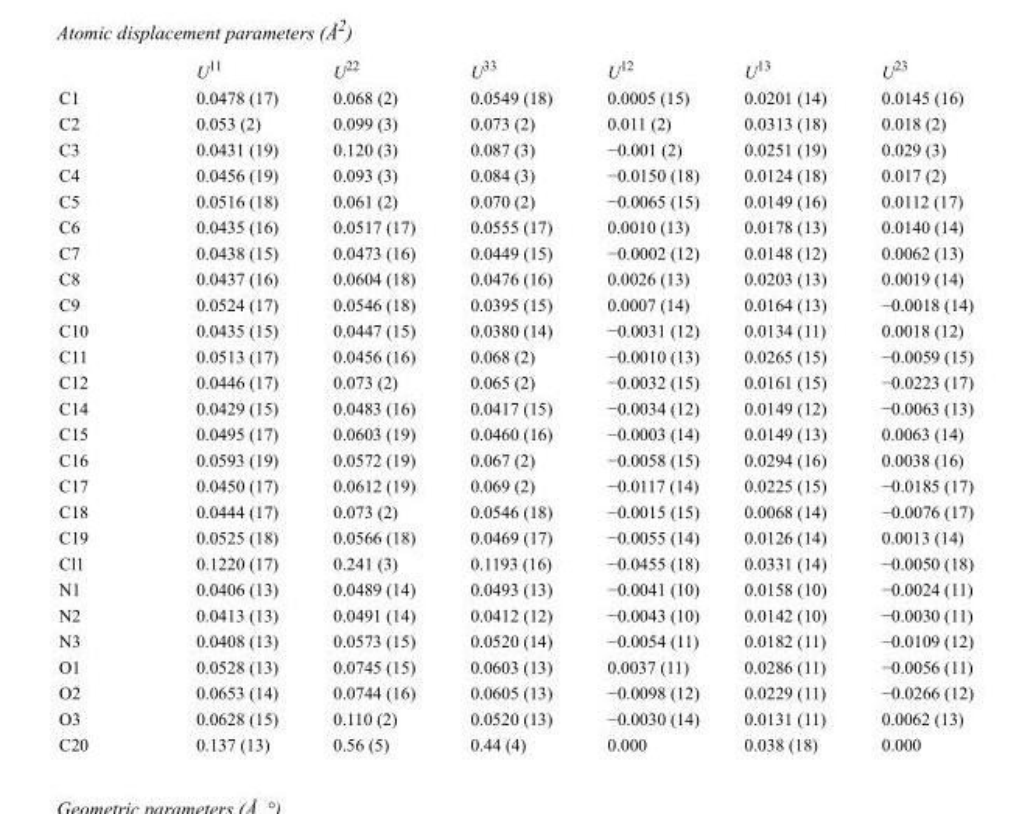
<table><thead><tr><td></td><td>U<sup>11</sup></td><td>U<sup>22</sup></td><td>U<sup>33</sup></td><td>U<sup>12</sup></td><td>U<sup>13</sup></td><td>U<sup>23</sup></td></tr></thead><tbody><tr><td>C1</td><td>0.0478 (17)</td><td>0.068 (2)</td><td>0.0549 (18)</td><td>0.0005 (15)</td><td>0.0201 (14)</td><td>0.0145 (16)</td></tr><tr><td>C2</td><td>0.053 (2)</td><td>0.099 (3)</td><td>0.073 (2)</td><td>0.011 (2)</td><td>0.0313 (18)</td><td>0.018 (2)</td></tr><tr><td>C3</td><td>0.0431 (19)</td><td>0.120 (3)</td><td>0.087 (3)</td><td>−0.001 (2)</td><td>0.0251 (19)</td><td>0.029 (3)</td></tr><tr><td>C4</td><td>0.0456 (19)</td><td>0.093 (3)</td><td>0.084 (3)</td><td>−0.0150 (18)</td><td>0.0124 (18)</td><td>0.017 (2)</td></tr><tr><td>C5</td><td>0.0516 (18)</td><td>0.061 (2)</td><td>0.070 (2)</td><td>−0.0065 (15)</td><td>0.0149 (16)</td><td>0.0112 (17)</td></tr><tr><td>C6</td><td>0.0435 (16)</td><td>0.0517 (17)</td><td>0.0555 (17)</td><td>0.0010 (13)</td><td>0.0178 (13)</td><td>0.0140 (14)</td></tr><tr><td>C7</td><td>0.0438 (15)</td><td>0.0473 (16)</td><td>0.0449 (15)</td><td>−0.0002 (12)</td><td>0.0148 (12)</td><td>0.0062 (13)</td></tr><tr><td>C8</td><td>0.0437 (16)</td><td>0.0604 (18)</td><td>0.0476 (16)</td><td>0.0026 (13)</td><td>0.0203 (13)</td><td>0.0019 (14)</td></tr><tr><td>C9</td><td>0.0524 (17)</td><td>0.0546 (18)</td><td>0.0395 (15)</td><td>0.0007 (14)</td><td>0.0164 (13)</td><td>−0.0018 (14)</td></tr><tr><td>C10</td><td>0.0435 (15)</td><td>0.0447 (15)</td><td>0.0380 (14)</td><td>−0.0031 (12)</td><td>0.0134 (11)</td><td>0.0018 (12)</td></tr><tr><td>C11</td><td>0.0513 (17)</td><td>0.0456 (16)</td><td>0.068 (2)</td><td>−0.0010 (13)</td><td>0.0265 (15)</td><td>−0.0059 (15)</td></tr><tr><td>C12</td><td>0.0446 (17)</td><td>0.073 (2)</td><td>0.065 (2)</td><td>−0.0032 (15)</td><td>0.0161 (15)</td><td>−0.0223 (17)</td></tr><tr><td>C14</td><td>0.0429 (15)</td><td>0.0483 (16)</td><td>0.0417 (15)</td><td>−0.0034 (12)</td><td>0.0149 (12)</td><td>−0.0063 (13)</td></tr><tr><td>C15</td><td>0.0495 (17)</td><td>0.0603 (19)</td><td>0.0460 (16)</td><td>−0.0003 (14)</td><td>0.0149 (13)</td><td>0.0063 (14)</td></tr><tr><td>C16</td><td>0.0593 (19)</td><td>0.0572 (19)</td><td>0.067 (2)</td><td>−0.0058 (15)</td><td>0.0294 (16)</td><td>0.0038 (16)</td></tr><tr><td>C17</td><td>0.0450 (17)</td><td>0.0612 (19)</td><td>0.069 (2)</td><td>−0.0117 (14)</td><td>0.0225 (15)</td><td>−0.0185 (17)</td></tr><tr><td>C18</td><td>0.0444 (17)</td><td>0.073 (2)</td><td>0.0546 (18)</td><td>−0.0015 (15)</td><td>0.0068 (14)</td><td>−0.0076 (17)</td></tr><tr><td>C19</td><td>0.0525 (18)</td><td>0.0566 (18)</td><td>0.0469 (17)</td><td>−0.0055 (14)</td><td>0.0126 (14)</td><td>0.0013 (14)</td></tr><tr><td>Cl1</td><td>0.1220 (17)</td><td>0.241 (3)</td><td>0.1193 (16)</td><td>−0.0455 (18)</td><td>0.0331 (14)</td><td>−0.0050 (18)</td></tr><tr><td>N1</td><td>0.0406 (13)</td><td>0.0489 (14)</td><td>0.0493 (13)</td><td>−0.0041 (10)</td><td>0.0158 (10)</td><td>−0.0024 (11)</td></tr><tr><td>N2</td><td>0.0413 (13)</td><td>0.0491 (14)</td><td>0.0412 (12)</td><td>−0.0043 (10)</td><td>0.0142 (10)</td><td>−0.0030 (11)</td></tr><tr><td>N3</td><td>0.0408 (13)</td><td>0.0573 (15)</td><td>0.0520 (14)</td><td>−0.0054 (11)</td><td>0.0182 (11)</td><td>−0.0109 (12)</td></tr><tr><td>O1</td><td>0.0528 (13)</td><td>0.0745 (15)</td><td>0.0603 (13)</td><td>0.0037 (11)</td><td>0.0286 (11)</td><td>−0.0056 (11)</td></tr><tr><td>O2</td><td>0.0653 (14)</td><td>0.0744 (16)</td><td>0.0605 (13)</td><td>−0.0098 (12)</td><td>0.0229 (11)</td><td>−0.0266 (12)</td></tr><tr><td>O3</td><td>0.0628 (15)</td><td>0.110 (2)</td><td>0.0520 (13)</td><td>−0.0030 (14)</td><td>0.0131 (11)</td><td>0.0062 (13)</td></tr><tr><td>C20</td><td>0.137 (13)</td><td>0.56 (5)</td><td>0.44 (4)</td><td>0.000</td><td>0.038 (18)</td><td>0.000</td></tr></tbody></table>